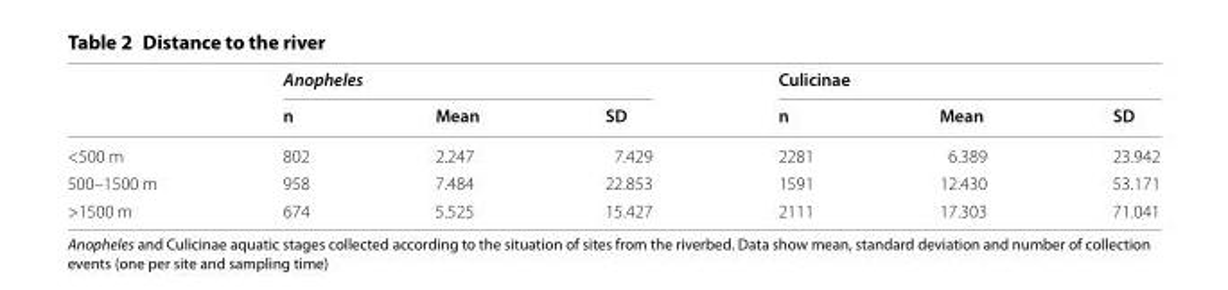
<table><thead><tr><td rowspan="2"></td><td colspan="3">Anopheles</td><td colspan="3">Culicinae</td></tr><tr><td>n</td><td>Mean</td><td>SD</td><td>n</td><td>Mean</td><td>SD</td></tr></thead><tbody><tr><td>&lt;500 m</td><td>802</td><td>2.247</td><td>7.429</td><td>2281</td><td>6.389</td><td>23.942</td></tr><tr><td>500–1500 m</td><td>958</td><td>7.484</td><td>22.853</td><td>1591</td><td>12.430</td><td>53.171</td></tr><tr><td>&gt;1500 m</td><td>674</td><td>5.525</td><td>15.427</td><td>2111</td><td>17.303</td><td>71.041</td></tr></tbody></table>